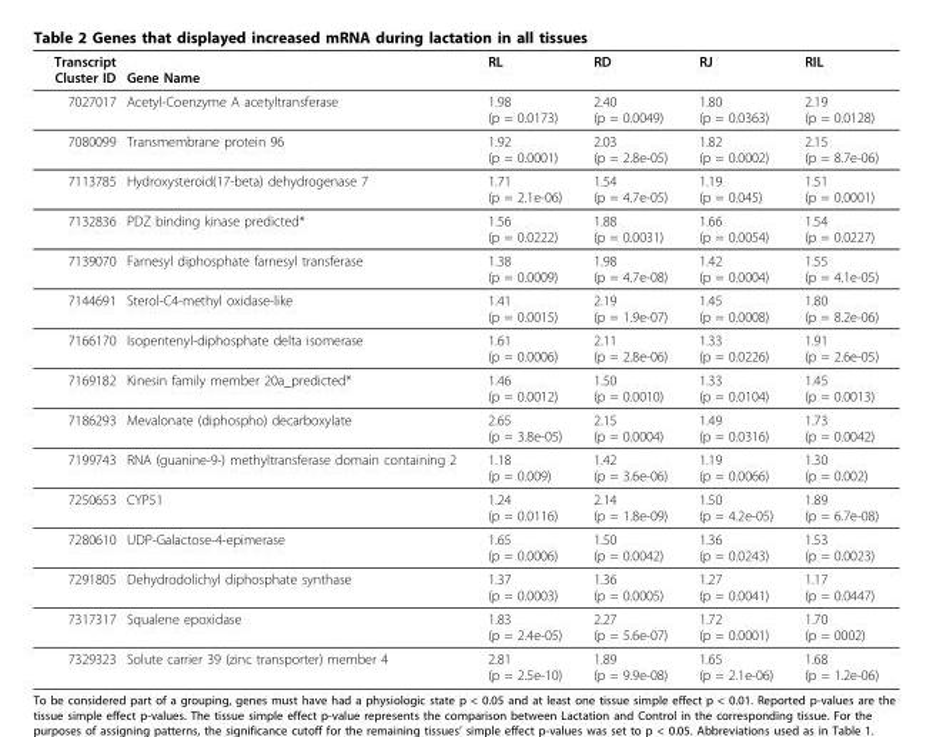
<table><thead><tr><td>Transcript Cluster ID</td><td>Gene Name</td><td>RL</td><td>RD</td><td>RJ</td><td>RIL</td></tr></thead><tbody><tr><td>7027017</td><td>Acetyl-Coenzyme A acetyltransferase</td><td>1.98 (p = 0.0173)</td><td>2.40 (p = 0.0049)</td><td>1.80 (p = 0.0363)</td><td>2.19 (p = 0.0128)</td></tr><tr><td>7080099</td><td>Transmembrane protein 96</td><td>1.92 (p = 0.0001)</td><td>2.03 (p = 2.8e-05)</td><td>1.82 (p = 0.0002)</td><td>2.15 (p = 8.7e-06)</td></tr><tr><td>7113785</td><td>Hydroxysteroid(17-beta) dehydrogenase 7</td><td>1.71 (p = 2.1e-06)</td><td>1.54 (p = 4.7e-05)</td><td>1.19 (p = 0.045)</td><td>1.51 (p = 0.0001)</td></tr><tr><td>7132836</td><td>PDZ binding kinase predicted*</td><td>1.56 (p = 0.0222)</td><td>1.88 (p = 0.0031)</td><td>1.66 (p = 0.0054)</td><td>1.54 (p = 0.0227)</td></tr><tr><td>7139070</td><td>Farnesyl diphosphate farnesyl transferase</td><td>1.38 (p = 0.0009)</td><td>1.98 (p = 4.7e-08)</td><td>1.42 (p = 0.0004)</td><td>1.55 (p = 4.1e-05)</td></tr><tr><td>7144691</td><td>Sterol-C4-methyl oxidase-like</td><td>1.41 (p = 0.0015)</td><td>2.19 (p = 1.9e-07)</td><td>1.45 (p = 0.0008)</td><td>1.80 (p = 8.2e-06)</td></tr><tr><td>7166170</td><td>Isopentenyl-diphosphate delta isomerase</td><td>1.61 (p = 0.0006)</td><td>2.11 (p = 2.8e-06)</td><td>1.33 (p = 0.0226)</td><td>1.91 (p = 2.6e-05)</td></tr><tr><td>7169182</td><td>Kinesin family member 20a_predicted*</td><td>1.46 (p = 0.0012)</td><td>1.50 (p = 0.0010)</td><td>1.33 (p = 0.0104)</td><td>1.45 (p = 0.0013)</td></tr><tr><td>7186293</td><td>Mevalonate (diphospho) decarboxylate</td><td>2.65 (p = 3.8e-05)</td><td>2.15 (p = 0.0004)</td><td>1.49 (p = 0.0316)</td><td>1.73 (p = 0.0042)</td></tr><tr><td>7199743</td><td>RNA (guanine-9-) methyltransferase domain containing 2</td><td>1.18 (p = 0.009)</td><td>1.42 (p = 3.6e-06)</td><td>1.19 (p = 0.0066)</td><td>1.30 (p = 0.002)</td></tr><tr><td>7250653</td><td>CYP51</td><td>1.24 (p = 0.0116)</td><td>2.14 (p = 1.8e-09)</td><td>1.50 (p = 4.2e-05)</td><td>1.89 (p = 6.7e-08)</td></tr><tr><td>7280610</td><td>UDP-Galactose-4-epimerase</td><td>1.65 (p = 0.0006)</td><td>1.50 (p = 0.0042)</td><td>1.36 (p = 0.0243)</td><td>1.53 (p = 0.0023)</td></tr><tr><td>7291805</td><td>Dehydrodolichyl diphosphate synthase</td><td>1.37 (p = 0.0003)</td><td>1.36 (p = 0.0005)</td><td>1.27 (p = 0.0041)</td><td>1.17 (p = 0.0447)</td></tr><tr><td>7317317</td><td>Squalene epoxidase</td><td>1.83 (p = 2.4e-05)</td><td>2.27 (p = 5.6e-07)</td><td>1.72 (p = 0.0001)</td><td>1.70 (p = 0002)</td></tr><tr><td>7329323</td><td>Solute carrier 39 (zinc transporter) member 4</td><td>2.81 (p = 2.5e-10)</td><td>1.89 (p = 9.9e-08)</td><td>1.65 (p = 2.1e-06)</td><td>1.68 (p = 1.2e-06)</td></tr></tbody></table>